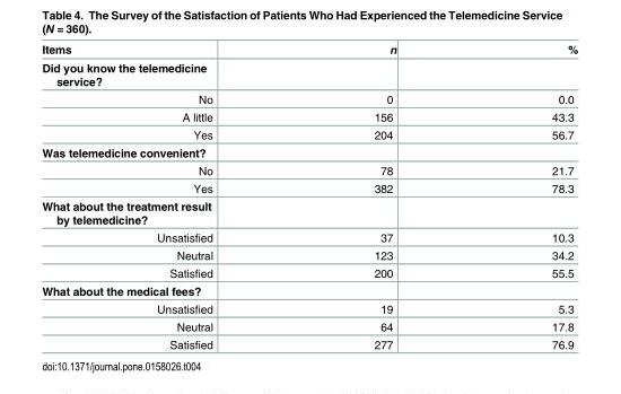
<table><thead><tr><td>Items</td><td>n</td><td>%</td></tr></thead><tbody><tr><td colspan="3">Did you know the telemedicine service?</td></tr><tr><td>No</td><td>0</td><td>0.0</td></tr><tr><td>A little</td><td>156</td><td>43.3</td></tr><tr><td>Yes</td><td>204</td><td>56.7</td></tr><tr><td colspan="3">Was telemedicine convenient?</td></tr><tr><td>No</td><td>78</td><td>21.7</td></tr><tr><td>Yes</td><td>382</td><td>78.3</td></tr><tr><td colspan="3">What about the treatment result by telemedicine?</td></tr><tr><td>Unsatisfied</td><td>37</td><td>10.3</td></tr><tr><td>Neutral</td><td>123</td><td>34.2</td></tr><tr><td>Satisfied</td><td>200</td><td>55.5</td></tr><tr><td colspan="3">What about the medical fees?</td></tr><tr><td>Unsatisfied</td><td>19</td><td>5.3</td></tr><tr><td>Neutral</td><td>64</td><td>17.8</td></tr><tr><td>Satisfied</td><td>277</td><td>76.9</td></tr></tbody></table>